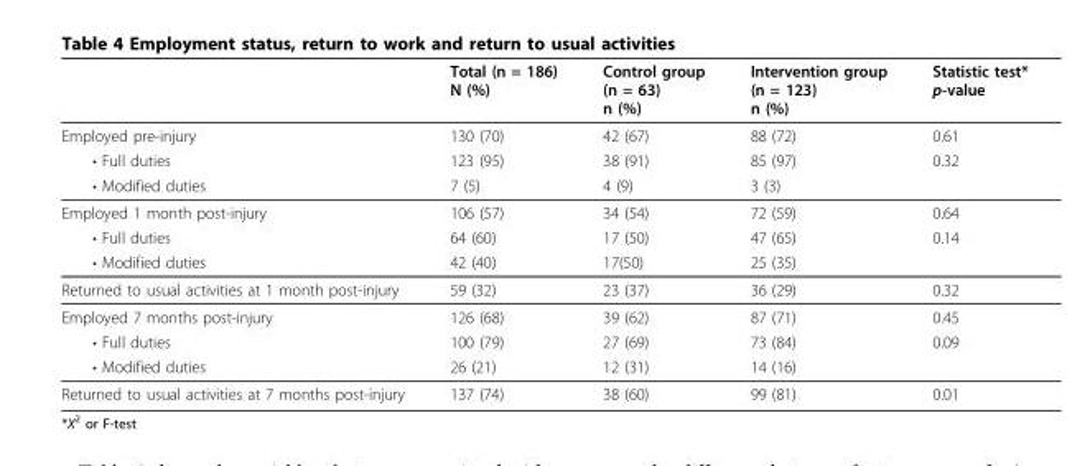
<table><thead><tr><td></td><td>Total (n = 186) N (%)</td><td>Control group (n = 63) n (%)</td><td>Intervention group (n = 123) n (%)</td><td>Statistic test* p-value</td></tr></thead><tbody><tr><td>Employed pre-injury</td><td>130 (70)</td><td>42 (67)</td><td>88 (72)</td><td>0.61</td></tr><tr><td>• Full duties</td><td>123 (95)</td><td>38 (91)</td><td>85 (97)</td><td>0.32</td></tr><tr><td>• Modified duties</td><td>7 (5)</td><td>4 (9)</td><td>3 (3)</td><td></td></tr><tr><td>Employed 1 month post-injury</td><td>106 (57)</td><td>34 (54)</td><td>72 (59)</td><td>0.64</td></tr><tr><td>• Full duties</td><td>64 (60)</td><td>17 (50)</td><td>47 (65)</td><td>0.14</td></tr><tr><td>• Modified duties</td><td>42 (40)</td><td>17(50)</td><td>25 (35)</td><td></td></tr><tr><td>Returned to usual activities at 1 month post-injury</td><td>59 (32)</td><td>23 (37)</td><td>36 (29)</td><td>0.32</td></tr><tr><td>Employed 7 months post-injury</td><td>126 (68)</td><td>39 (62)</td><td>87 (71)</td><td>0.45</td></tr><tr><td>• Full duties</td><td>100 (79)</td><td>27 (69)</td><td>73 (84)</td><td>0.09</td></tr><tr><td>• Modified duties</td><td>26 (21)</td><td>12 (31)</td><td>14 (16)</td><td></td></tr><tr><td>Returned to usual activities at 7 months post-injury</td><td>137 (74)</td><td>38 (60)</td><td>99 (81)</td><td>0.01</td></tr></tbody></table>